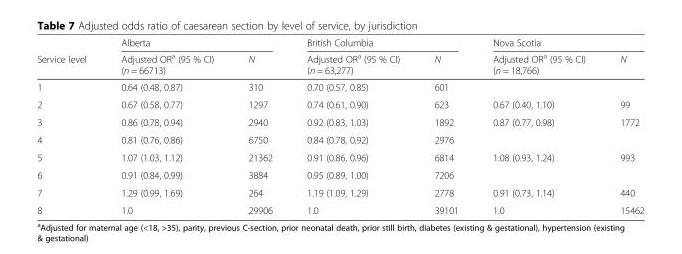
<table><thead><tr><td rowspan="2">Service level</td><td colspan="2">Alberta</td><td colspan="2">British Columbia</td><td colspan="2">Nova Scotia</td></tr><tr><td>Adjusted OR<sup>a</sup> (95 % CI) (n = 66713)</td><td>N</td><td>Adjusted OR<sup>a</sup> (95 % CI) (n = 63,277)</td><td>N</td><td>Adjusted OR<sup>a</sup> (95 % CI) (n = 18,766)</td><td>N</td></tr></thead><tbody><tr><td>1</td><td>0.64 (0.48, 0.87)</td><td>310</td><td>0.70 (0.57, 0.85)</td><td>601</td><td colspan="2"></td></tr><tr><td>2</td><td>0.67 (0.58, 0.77)</td><td>1297</td><td>0.74 (0.61, 0.90)</td><td>623</td><td>0.67 (0.40, 1.10)</td><td>99</td></tr><tr><td>3</td><td>0.86 (0.78, 0.94)</td><td>2940</td><td>0.92 (0.83, 1.03)</td><td>1892</td><td>0.87 (0.77, 0.98)</td><td>1772</td></tr><tr><td>4</td><td>0.81 (0.76, 0.86)</td><td>6750</td><td>0.84 (0.78, 0.92)</td><td>2976</td><td colspan="2"></td></tr><tr><td>5</td><td>1.07 (1.03, 1.12)</td><td>21362</td><td>0.91 (0.86, 0.96)</td><td>6814</td><td>1.08 (0.93, 1.24)</td><td>993</td></tr><tr><td>6</td><td>0.91 (0.84, 0.99)</td><td>3884</td><td>0.95 (0.89, 1.00)</td><td>7206</td><td colspan="2"></td></tr><tr><td>7</td><td>1.29 (0.99, 1.69)</td><td>264</td><td>1.19 (1.09, 1.29)</td><td>2778</td><td>0.91 (0.73, 1.14)</td><td>440</td></tr><tr><td>8</td><td>1.0</td><td>29906</td><td>1.0</td><td>39101</td><td>1.0</td><td>15462</td></tr></tbody></table>